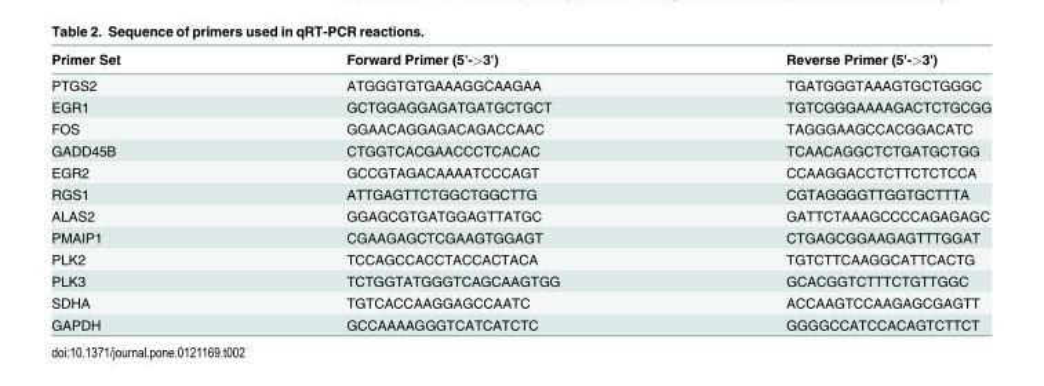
<table><thead><tr><td>Primer Set</td><td>Forward Primer (5&#x27;-&gt;3&#x27;)</td><td>Reverse Primer (5&#x27;-&gt;3&#x27;)</td></tr></thead><tbody><tr><td>PTGS2</td><td>ATGGGTGTGAAAGGCAAGAA</td><td>TGATGGGTAAAGTGCTGGGC</td></tr><tr><td>EGR1</td><td>GCTGGAGGAGATGATGCTGCT</td><td>TGTCGGGAAAAGACTCTGCGG</td></tr><tr><td>FOS</td><td>GGAACAGGAGACAGACCAAC</td><td>TAGGGAAGCCACGGACATC</td></tr><tr><td>GADD45B</td><td>CTGGTCACGAACCCTCACAC</td><td>TCAACAGGCTCTGATGCTGG</td></tr><tr><td>EGR2</td><td>GCCGTAGACAAAATCCCAGT</td><td>CCAAGGACCTCTTCTCTCCA</td></tr><tr><td>RGS1</td><td>ATTGAGTTCTGGCTGGCTTG</td><td>CGTAGGGGTTGGTGCTTTA</td></tr><tr><td>ALAS2</td><td>GGAGCGTGATGGAGTTATGC</td><td>GATTCTAAAGCCCCAGAGAGC</td></tr><tr><td>PMAIP1</td><td>CGAAGAGCTCGAAGTGGAGT</td><td>CTGAGCGGAAGAGTTTGGAT</td></tr><tr><td>PLK2</td><td>TCCAGCCACCTACCACTACA</td><td>TGTCTTCAAGGCATTCACTG</td></tr><tr><td>PLK3</td><td>TCTGGTATGGGTCAGCAAGTGG</td><td>GCACGGTCTTTCTGTTGGC</td></tr><tr><td>SDHA</td><td>TGTCACCAAGGAGCCAATC</td><td>ACCAAGTCCAAGAGCGAGTT</td></tr><tr><td>GAPDH</td><td>GCCAAAAGGGTCATCATCTC</td><td>GGGGCCATCCACAGTCTTCT</td></tr></tbody></table>